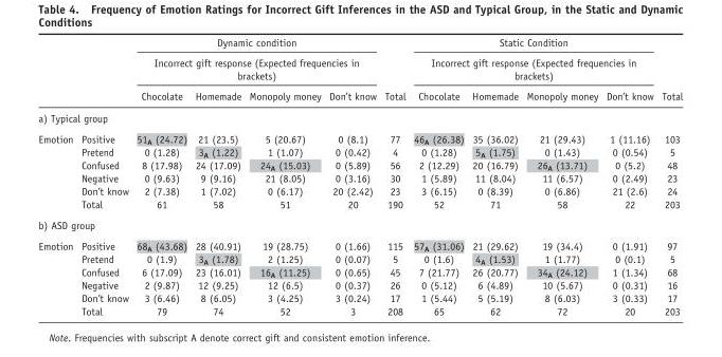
<table><thead><tr><td rowspan="3"></td><td rowspan="3"></td><td rowspan="2" colspan="4">Dynamic condition Incorrect gift response (Expected frequencies in brackets)</td><td rowspan="3">Total</td><td rowspan="2" colspan="4">Static Condition Incorrect gift response (Expected frequencies in brackets)</td><td rowspan="3">Total</td></tr><tr></tr><tr><td>Chocolate</td><td>Homemade</td><td>Monopoly money</td><td>Don’t know</td><td>Chocolate</td><td>Homemade</td><td>Monopoly money</td><td>Don’t know</td></tr></thead><tbody><tr><td colspan="12">a) Typical group</td></tr><tr><td rowspan="6">Emotion</td><td>Positive</td><td>51<sub>A</sub> (24.72)</td><td>21 (23.5)</td><td>5 (20.67)</td><td>0 (8.1)</td><td>77</td><td>46<sub>A</sub> (26.38)</td><td>35 (36.02)</td><td>21 (29.43)</td><td>1 (11.16)</td><td>103</td></tr><tr><td>Pretend</td><td>0 (1.28)</td><td>3<sub>A</sub> (1.22)</td><td>1 (1.07)</td><td>0 (0.42)</td><td>4</td><td>0 (1.28)</td><td>5<sub>A</sub> (1.75)</td><td>0 (1.43)</td><td>0 (0.54)</td><td>5</td></tr><tr><td>Confused</td><td>8 (17.98)</td><td>24 (17.09)</td><td>24<sub>A</sub> (15.03)</td><td>0 (5.89)</td><td>56</td><td>2 (12.29)</td><td>20 (16.79)</td><td>26<sub>A</sub> (13.71)</td><td>0 (5.2)</td><td>48</td></tr><tr><td>Negative</td><td>0 (9.63)</td><td>9 (9.16)</td><td>21 (8.05)</td><td>0 (3.16)</td><td>30</td><td>1 (5.89)</td><td>11 (8.04)</td><td>11 (6.57)</td><td>0 (2.49)</td><td>23</td></tr><tr><td>Don’t know</td><td>2 (7.38)</td><td>1 (7.02)</td><td>0 (6.17)</td><td>20 (2.42)</td><td>23</td><td>3 (6.15)</td><td>0 (8.39)</td><td>0 (6.86)</td><td>21 (2.6)</td><td>24</td></tr><tr><td>Total</td><td>61</td><td>58</td><td>51</td><td>20</td><td>190</td><td>52</td><td>71</td><td>58</td><td>22</td><td>203</td></tr><tr><td colspan="12">b) ASD group</td></tr><tr><td rowspan="6">Emotion</td><td>Positive</td><td>68<sub>A</sub> (43.68)</td><td>28 (40.91)</td><td>19 (28.75)</td><td>0 (1.66)</td><td>115</td><td>57<sub>A</sub> (31.06)</td><td>21 (29.62)</td><td>19 (34.4)</td><td>0 (1.91)</td><td>97</td></tr><tr><td>Pretend</td><td>0 (1.9)</td><td>3<sub>A</sub> (1.78)</td><td>2 (1.25)</td><td>0 (0.07)</td><td>5</td><td>0 (1.6)</td><td>4<sub>A</sub> (1.53)</td><td>1 (1.77)</td><td>0 (0.1)</td><td>5</td></tr><tr><td>Confused</td><td>6 (17.09)</td><td>23 (16.01)</td><td>16<sub>A</sub> (11.25)</td><td>0 (0.65)</td><td>45</td><td>7 (21.77)</td><td>26 (20.77)</td><td>34<sub>A</sub> (24.12)</td><td>1 (1.34)</td><td>68</td></tr><tr><td>Negative</td><td>2 (9.87)</td><td>12 (9.25)</td><td>12 (6.5)</td><td>0 (0.37)</td><td>26</td><td>0 (5.12)</td><td>6 (4.89)</td><td>10 (5.67)</td><td>0 (0.31)</td><td>16</td></tr><tr><td>Don’t know</td><td>3 (6.46)</td><td>8 (6.05)</td><td>3 (4.25)</td><td>3 (0.24)</td><td>17</td><td>1 (5.44)</td><td>5 (5.19)</td><td>8 (6.03)</td><td>3 (0.33)</td><td>17</td></tr><tr><td>Total</td><td>79</td><td>74</td><td>52</td><td>3</td><td>208</td><td>65</td><td>62</td><td>72</td><td>20</td><td>203</td></tr></tbody></table>